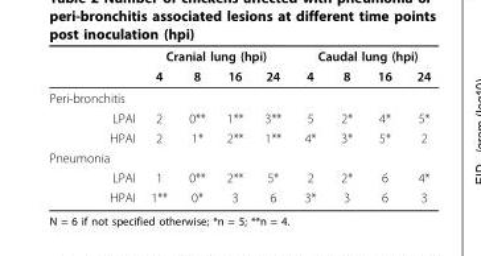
<table><thead><tr><td rowspan="2"></td><td colspan="4">Cranial lung (hpi)</td><td colspan="4">Caudal lung (hpi)</td></tr><tr><td>4</td><td>8</td><td>16</td><td>24</td><td>4</td><td>8</td><td>16</td><td>24</td></tr></thead><tbody><tr><td colspan="9">Peri-bronchitis</td></tr><tr><td>LPAI</td><td>2</td><td>0**</td><td>1**</td><td>3**</td><td>5</td><td>2*</td><td>4*</td><td>5*</td></tr><tr><td>HPAI</td><td>2</td><td>1*</td><td>2**</td><td>1**</td><td>4*</td><td>3*</td><td>5*</td><td>2</td></tr><tr><td colspan="9">Pneumonia</td></tr><tr><td>LPAI</td><td>1</td><td>0**</td><td>2**</td><td>5*</td><td>2</td><td>2*</td><td>6</td><td>4*</td></tr><tr><td>HPAI</td><td>1**</td><td>0*</td><td>3</td><td>6</td><td>3*</td><td>3</td><td>6</td><td>3</td></tr></tbody></table>